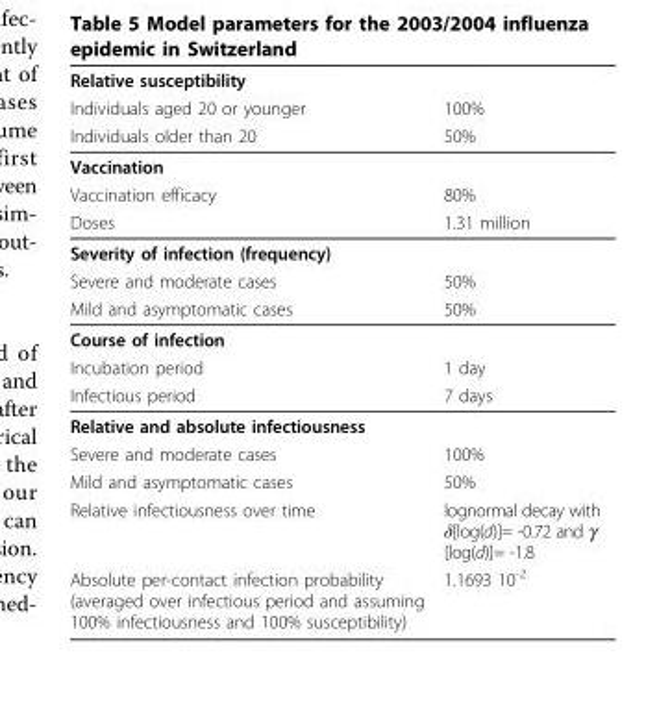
<table><thead><tr><td rowspan="3">Relative susceptibility Individuals aged 20 or younger Individuals older than 20</td><td rowspan="3">100% 50%</td></tr><tr></tr><tr></tr></thead><tbody><tr><td colspan="2">Vaccination</td></tr><tr><td>Vaccination efficacy</td><td>80%</td></tr><tr><td>Doses</td><td>1.31 million</td></tr><tr><td colspan="2">Severity of infection (frequency)</td></tr><tr><td>Severe and moderate cases</td><td>50%</td></tr><tr><td>Mild and asymptomatic cases</td><td>50%</td></tr><tr><td colspan="2">Course of infection</td></tr><tr><td>Incubation period</td><td>1 day</td></tr><tr><td>Infectious period</td><td>7 days</td></tr><tr><td colspan="2">Relative and absolute infectiousness</td></tr><tr><td>Severe and moderate cases</td><td>100%</td></tr><tr><td>Mild and asymptomatic cases</td><td>50%</td></tr><tr><td>Relative infectiousness over time</td><td>lognormal decay with δ[log(d)]= -0.72 and γ [log(d)]= -1.8</td></tr><tr><td>Absolute per-contact infection probability (averaged over infectious period and assuming 100% infectiousness and 100% susceptibility)</td><td>1.1693 10<sup>-2</sup></td></tr></tbody></table>